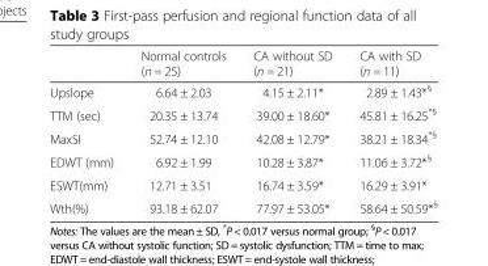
<table><thead><tr><td></td><td>Normal controls (n = 25)</td><td>CA without SD (n = 21)</td><td>CA with SD (n = 11)</td></tr></thead><tbody><tr><td>Upslope</td><td>6.64 ± 2.03</td><td>4.15 ± 2.11*</td><td>2.89 ± 1.43*<sup>§</sup></td></tr><tr><td>TTM (sec)</td><td>20.35 ± 13.74</td><td>39.00 ± 18.60*</td><td>45.81 ± 16.25<sup>*§</sup></td></tr><tr><td>MaxSI</td><td>52.74 ± 12.10</td><td>42.08 ± 12.79*</td><td>38.21 ± 18.34<sup>*§</sup></td></tr><tr><td>EDWT (mm)</td><td>6.92 ± 1.99</td><td>10.28 ± 3.87*</td><td>11.06 ± 3.72*<sup>§</sup></td></tr><tr><td>ESWT(mm)</td><td>12.71 ± 3.51</td><td>16.74 ± 3.59*</td><td>16.29 ± 3.91*</td></tr><tr><td>Wth(%)</td><td>93.18 ± 62.07</td><td>77.97 ± 53.05*</td><td>58.64 ± 50.59*<sup>§</sup></td></tr></tbody></table>